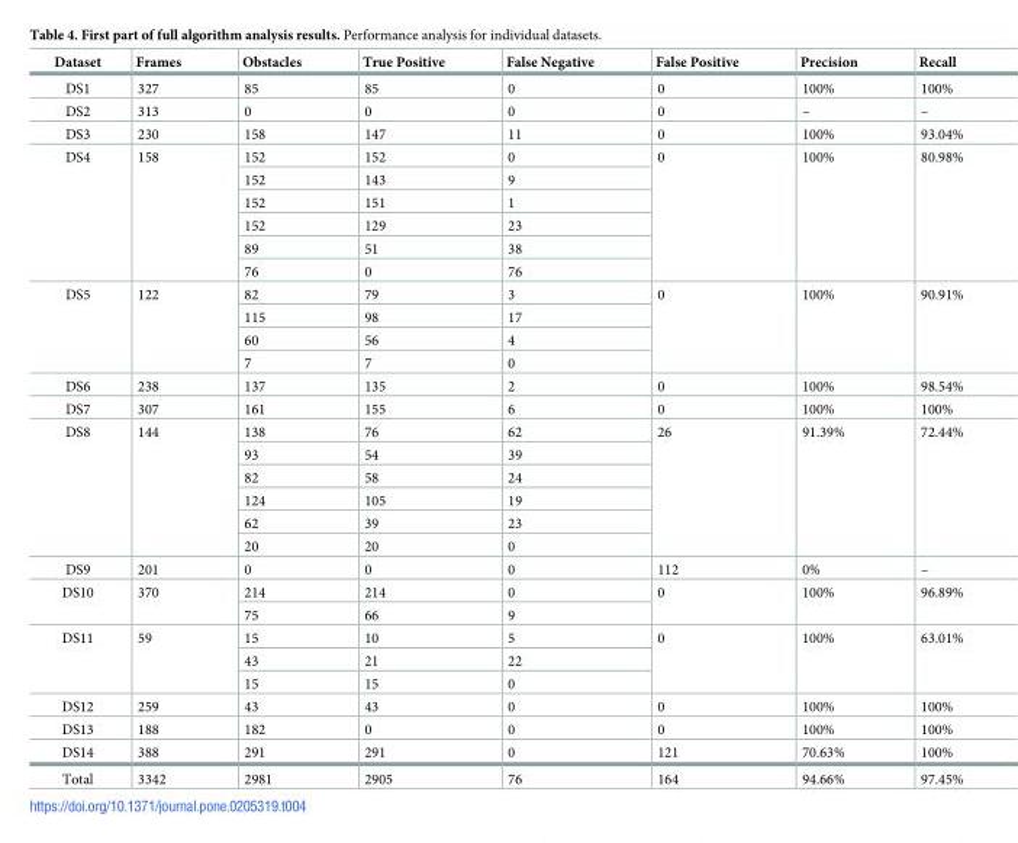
<table><thead><tr><td>Dataset</td><td>Frames</td><td>Obstacles</td><td>True Positive</td><td>False Negative</td><td>False Positive</td><td>Precision</td><td>Recall</td></tr></thead><tbody><tr><td>DS1</td><td>327</td><td>85</td><td>85</td><td>0</td><td>0</td><td>100%</td><td>100%</td></tr><tr><td>DS2</td><td>313</td><td>0</td><td>0</td><td>0</td><td>0</td><td>–</td><td>–</td></tr><tr><td>DS3</td><td>230</td><td>158</td><td>147</td><td>11</td><td>0</td><td>100%</td><td>93.04%</td></tr><tr><td rowspan="6">DS4</td><td rowspan="6">158</td><td>152</td><td>152</td><td>0</td><td rowspan="6">0</td><td rowspan="6">100%</td><td rowspan="6">80.98%</td></tr><tr><td>152</td><td>143</td><td>9</td></tr><tr><td>152</td><td>151</td><td>1</td></tr><tr><td>152</td><td>129</td><td>23</td></tr><tr><td>89</td><td>51</td><td>38</td></tr><tr><td>76</td><td>0</td><td>76</td></tr><tr><td rowspan="4">DS5</td><td rowspan="4">122</td><td>82</td><td>79</td><td>3</td><td rowspan="4">0</td><td rowspan="4">100%</td><td rowspan="4">90.91%</td></tr><tr><td>115</td><td>98</td><td>17</td></tr><tr><td>60</td><td>56</td><td>4</td></tr><tr><td>7</td><td>7</td><td>0</td></tr><tr><td>DS6</td><td>238</td><td>137</td><td>135</td><td>2</td><td>0</td><td>100%</td><td>98.54%</td></tr><tr><td>DS7</td><td>307</td><td>161</td><td>155</td><td>6</td><td>0</td><td>100%</td><td>100%</td></tr><tr><td rowspan="6">DS8</td><td rowspan="6">144</td><td>138</td><td>76</td><td>62</td><td rowspan="6">26</td><td rowspan="6">91.39%</td><td rowspan="6">72.44%</td></tr><tr><td>93</td><td>54</td><td>39</td></tr><tr><td>82</td><td>58</td><td>24</td></tr><tr><td>124</td><td>105</td><td>19</td></tr><tr><td>62</td><td>39</td><td>23</td></tr><tr><td>20</td><td>20</td><td>0</td></tr><tr><td>DS9</td><td>201</td><td>0</td><td>0</td><td>0</td><td>112</td><td>0%</td><td>–</td></tr><tr><td rowspan="2">DS10</td><td rowspan="2">370</td><td>214</td><td>214</td><td>0</td><td rowspan="2">0</td><td rowspan="2">100%</td><td rowspan="2">96.89%</td></tr><tr><td>75</td><td>66</td><td>9</td></tr><tr><td rowspan="3">DS11</td><td rowspan="3">59</td><td>15</td><td>10</td><td>5</td><td rowspan="3">0</td><td rowspan="3">100%</td><td rowspan="3">63.01%</td></tr><tr><td>43</td><td>21</td><td>22</td></tr><tr><td>15</td><td>15</td><td>0</td></tr><tr><td>DS12</td><td>259</td><td>43</td><td>43</td><td>0</td><td>0</td><td>100%</td><td>100%</td></tr><tr><td>DS13</td><td>188</td><td>182</td><td>0</td><td>0</td><td>0</td><td>100%</td><td>100%</td></tr><tr><td>DS14</td><td>388</td><td>291</td><td>291</td><td>0</td><td>121</td><td>70.63%</td><td>100%</td></tr><tr><td>Total</td><td>3342</td><td>2981</td><td>2905</td><td>76</td><td>164</td><td>94.66%</td><td>97.45%</td></tr></tbody></table>